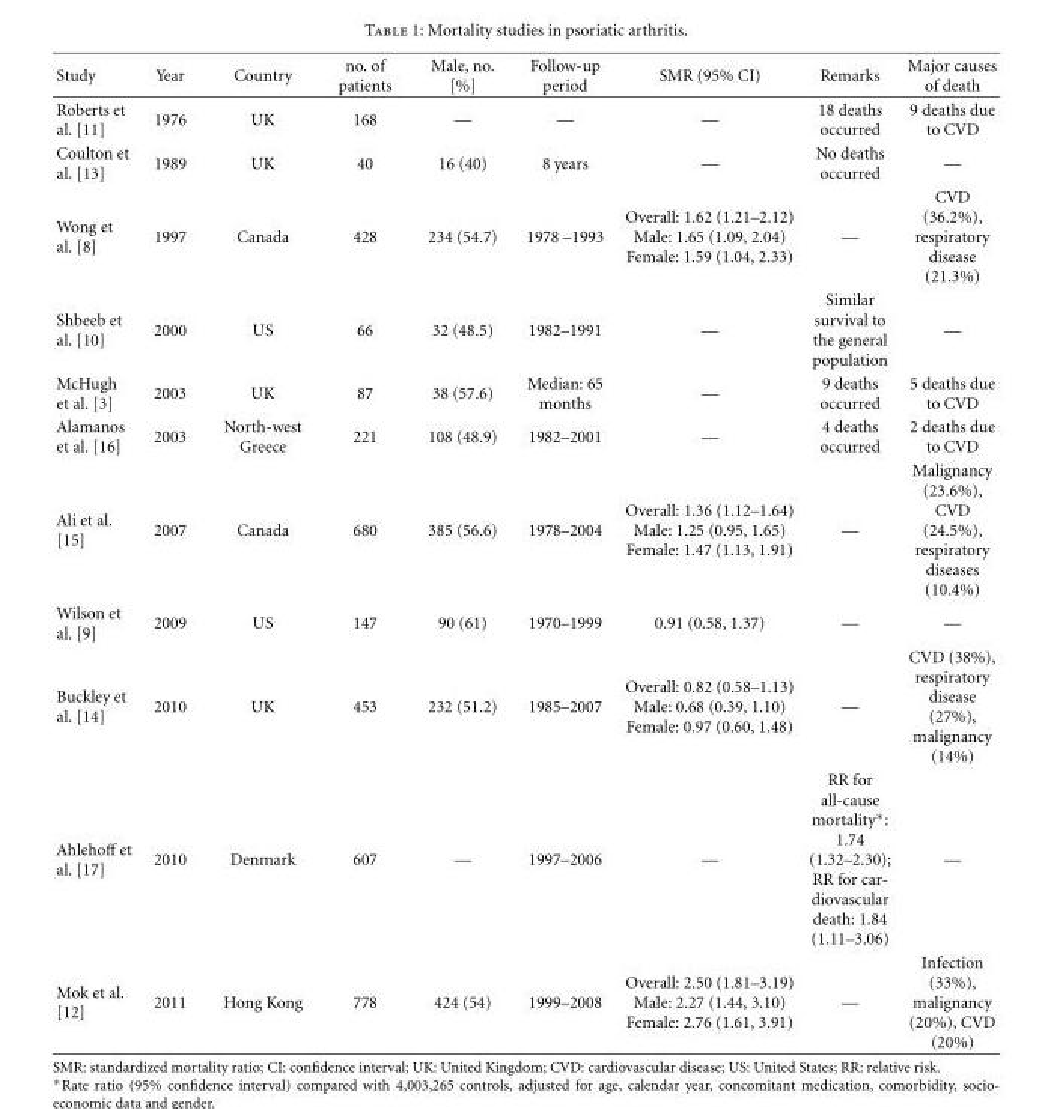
<table><thead><tr><td>Study</td><td>Year</td><td>Country</td><td>no. of patients</td><td>Male, no. [%]</td><td>Follow-up period</td><td>SMR (95% CI)</td><td>Remarks</td><td>Major causes of death</td></tr></thead><tbody><tr><td>Roberts et al. [11]</td><td>1976</td><td>UK</td><td>168</td><td>—</td><td>—</td><td>—</td><td>18 deaths occurred</td><td>9 deaths due to CVD</td></tr><tr><td>Coulton et al. [13]</td><td>1989</td><td>UK</td><td>40</td><td>16 (40)</td><td>8 years</td><td>—</td><td>No deaths occurred</td><td>—</td></tr><tr><td>Wong et al. [8]</td><td>1997</td><td>Canada</td><td>428</td><td>234 (54.7)</td><td>1978 –1993</td><td>Overall: 1.62 (1.21–2.12) Male: 1.65 (1.09, 2.04) Female: 1.59 (1.04, 2.33)</td><td>—</td><td>CVD (36.2%), respiratory disease (21.3%)</td></tr><tr><td>Shbeeb et al. [10]</td><td>2000</td><td>US</td><td>66</td><td>32 (48.5)</td><td>1982–1991</td><td>—</td><td>Similar survival to the general population</td><td>—</td></tr><tr><td>McHugh et al. [3]</td><td>2003</td><td>UK</td><td>87</td><td>38 (57.6)</td><td>Median: 65 months</td><td>—</td><td>9 deaths occurred</td><td>5 deaths due to CVD</td></tr><tr><td>Alamanos et al. [16]</td><td>2003</td><td>North-west Greece</td><td>221</td><td>108 (48.9)</td><td>1982–2001</td><td>—</td><td>4 deaths occurred</td><td>2 deaths due to CVD</td></tr><tr><td>Ali et al. [15]</td><td>2007</td><td>Canada</td><td>680</td><td>385 (56.6)</td><td>1978–2004</td><td>Overall: 1.36 (1.12–1.64) Male: 1.25 (0.95, 1.65) Female: 1.47 (1.13, 1.91)</td><td>—</td><td>Malignancy (23.6%), CVD (24.5%), respiratory diseases (10.4%)</td></tr><tr><td>Wilson et al. [9]</td><td>2009</td><td>US</td><td>147</td><td>90 (61)</td><td>1970–1999</td><td>0.91 (0.58, 1.37)</td><td>—</td><td>—</td></tr><tr><td>Buckley et al. [14]</td><td>2010</td><td>UK</td><td>453</td><td>232 (51.2)</td><td>1985–2007</td><td>Overall: 0.82 (0.58–1.13) Male: 0.68 (0.39, 1.10) Female: 0.97 (0.60, 1.48)</td><td>—</td><td>CVD (38%), respiratory disease (27%), malignancy (14%)</td></tr><tr><td>Ahlehoff et al. [17]</td><td>2010</td><td>Denmark</td><td>607</td><td>—</td><td>1997–2006</td><td>—</td><td>RR for all-cause mortality∗: 1.74 (1.32–2.30); RR for car- diovascular death: 1.84 (1.11–3.06)</td><td>—</td></tr><tr><td>Mok et al. [12]</td><td>2011</td><td>Hong Kong</td><td>778</td><td>424 (54)</td><td>1999–2008</td><td>Overall: 2.50 (1.81–3.19) Male: 2.27 (1.44, 3.10) Female: 2.76 (1.61, 3.91)</td><td>—</td><td>Infection (33%), malignancy (20%), CVD (20%)</td></tr></tbody></table>